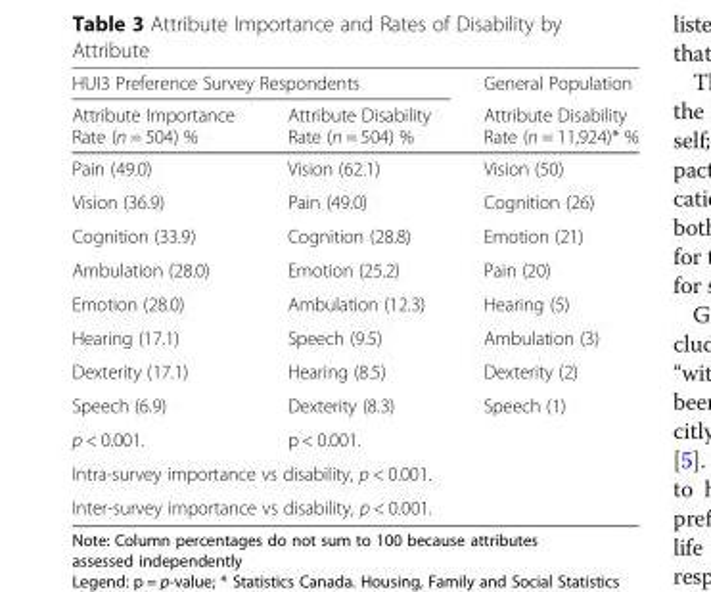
<table><thead><tr><td colspan="2">HUI3 Preference Survey Respondents</td><td rowspan="2">General Population Attribute Disability Rate (n = 11,924)* %</td></tr><tr><td>Attribute Importance Rate (n = 504) %</td><td>Attribute Disability Rate (n = 504) %</td></tr></thead><tbody><tr><td>Pain (49.0)</td><td>Vision (62.1)</td><td>Vision (50)</td></tr><tr><td>Vision (36.9)</td><td>Pain (49.0)</td><td>Cognition (26)</td></tr><tr><td>Cognition (33.9)</td><td>Cognition (28.8)</td><td>Emotion (21)</td></tr><tr><td>Ambulation (28.0)</td><td>Emotion (25.2)</td><td>Pain (20)</td></tr><tr><td>Emotion (28.0)</td><td>Ambulation (12.3)</td><td>Hearing (5)</td></tr><tr><td>Hearing (17.1)</td><td>Speech (9.5)</td><td>Ambulation (3)</td></tr><tr><td>Dexterity (17.1)</td><td>Hearing (8.5)</td><td>Dexterity (2)</td></tr><tr><td>Speech (6.9)</td><td>Dexterity (8.3)</td><td>Speech (1)</td></tr><tr><td>p &lt; 0.001.</td><td>p &lt; 0.001.</td><td rowspan="2"></td></tr><tr><td colspan="2">Intra-survey importance vs disability, p &lt; 0.001.</td></tr><tr><td colspan="3">Inter-survey importance vs disability, p &lt; 0.001.</td></tr></tbody></table>